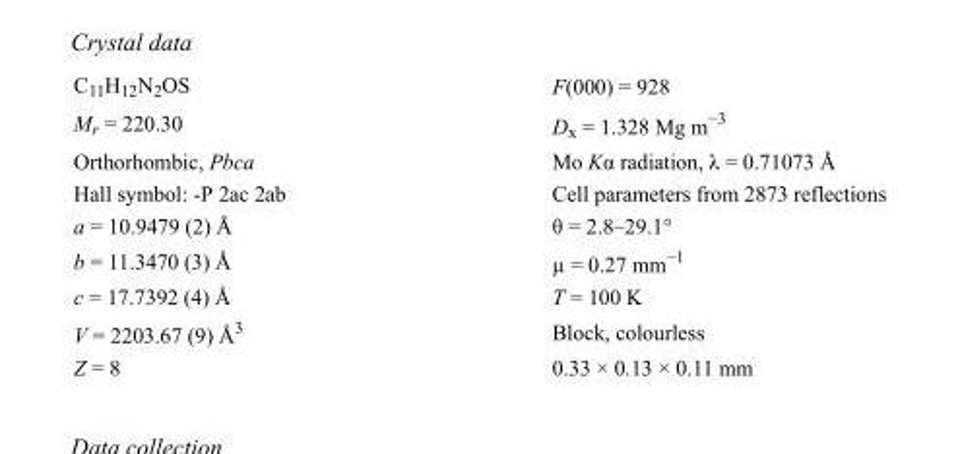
<table><tbody><tr><td>C<sub>11</sub>H<sub>12</sub>N<sub>2</sub>OS</td><td>F(000) = 928</td></tr><tr><td>M<sub>r</sub> = 220.30</td><td>D<sub>x</sub> = 1.328 Mg m<sup>−3</sup></td></tr><tr><td>Orthorhombic, Pbca</td><td>Mo Kα radiation, λ = 0.71073 Å</td></tr><tr><td>Hall symbol: -P 2ac 2ab</td><td>Cell parameters from 2873 reflections</td></tr><tr><td>a = 10.9479 (2) Å</td><td>θ = 2.8–29.1°</td></tr><tr><td>b = 11.3470 (3) Å</td><td>µ = 0.27 mm<sup>−1</sup></td></tr><tr><td>c = 17.7392 (4) Å</td><td>T = 100 K</td></tr><tr><td>V = 2203.67 (9) Å<sup>3</sup></td><td>Block, colourless</td></tr><tr><td>Z = 8</td><td>0.33 × 0.13 × 0.11 mm</td></tr></tbody></table>